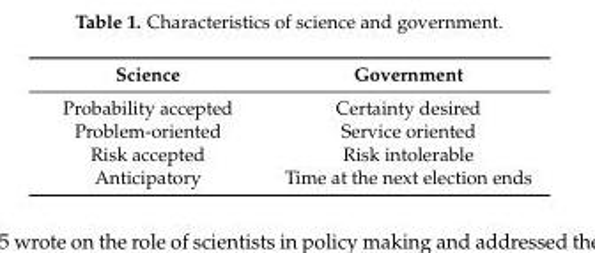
<table><thead><tr><td>Science</td><td>Government</td></tr></thead><tbody><tr><td>Probability accepted</td><td>Certainty desired</td></tr><tr><td>Problem-oriented</td><td>Service oriented</td></tr><tr><td>Risk accepted</td><td>Risk intolerable</td></tr><tr><td>Anticipatory</td><td>Time at the next election ends</td></tr></tbody></table>